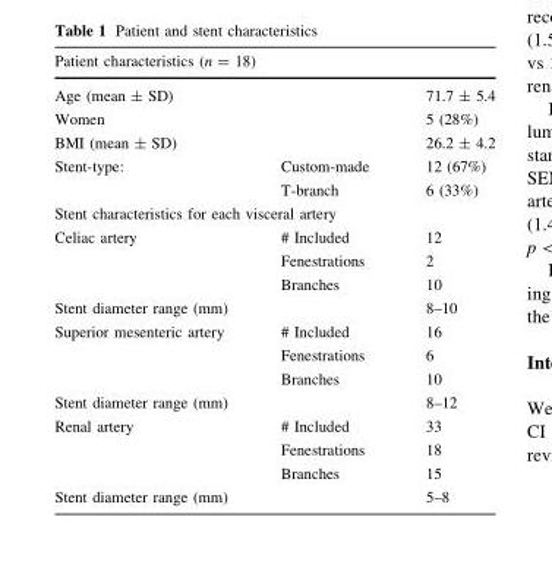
<table><thead><tr><td colspan="3">Patient characteristics (n = 18)</td></tr></thead><tbody><tr><td colspan="2">Age (mean ± SD)</td><td>71.7 ± 5.4</td></tr><tr><td colspan="2">Women</td><td>5 (28%)</td></tr><tr><td colspan="2">BMI (mean ± SD)</td><td>26.2 ± 4.2</td></tr><tr><td rowspan="2">Stent-type:</td><td>Custom-made</td><td>12 (67%)</td></tr><tr><td>T-branch</td><td>6 (33%)</td></tr><tr><td colspan="3">Stent characteristics for each visceral artery</td></tr><tr><td rowspan="3">Celiac artery</td><td># Included</td><td>12</td></tr><tr><td>Fenestrations</td><td>2</td></tr><tr><td>Branches</td><td>10</td></tr><tr><td colspan="2">Stent diameter range (mm)</td><td>8–10</td></tr><tr><td rowspan="3">Superior mesenteric artery</td><td># Included</td><td>16</td></tr><tr><td>Fenestrations</td><td>6</td></tr><tr><td>Branches</td><td>10</td></tr><tr><td colspan="2">Stent diameter range (mm)</td><td>8–12</td></tr><tr><td rowspan="3">Renal artery</td><td># Included</td><td>33</td></tr><tr><td>Fenestrations</td><td>18</td></tr><tr><td>Branches</td><td>15</td></tr><tr><td colspan="2">Stent diameter range (mm)</td><td>5–8</td></tr></tbody></table>